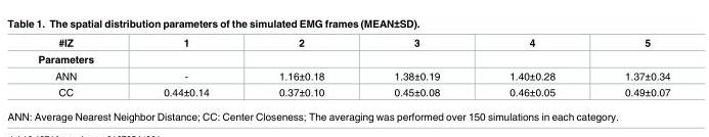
<table><thead><tr><td rowspan="2">#IZ Parameters</td><td rowspan="2">1</td><td rowspan="2">2</td><td rowspan="2">3</td><td rowspan="2">4</td><td rowspan="2">5</td></tr><tr></tr></thead><tbody><tr><td>ANN</td><td>-</td><td>1.16±0.18</td><td>1.38±0.19</td><td>1.40±0.28</td><td>1.37±0.34</td></tr><tr><td>CC</td><td>0.44±0.14</td><td>0.37±0.10</td><td>0.45±0.08</td><td>0.46±0.05</td><td>0.49±0.07</td></tr></tbody></table>